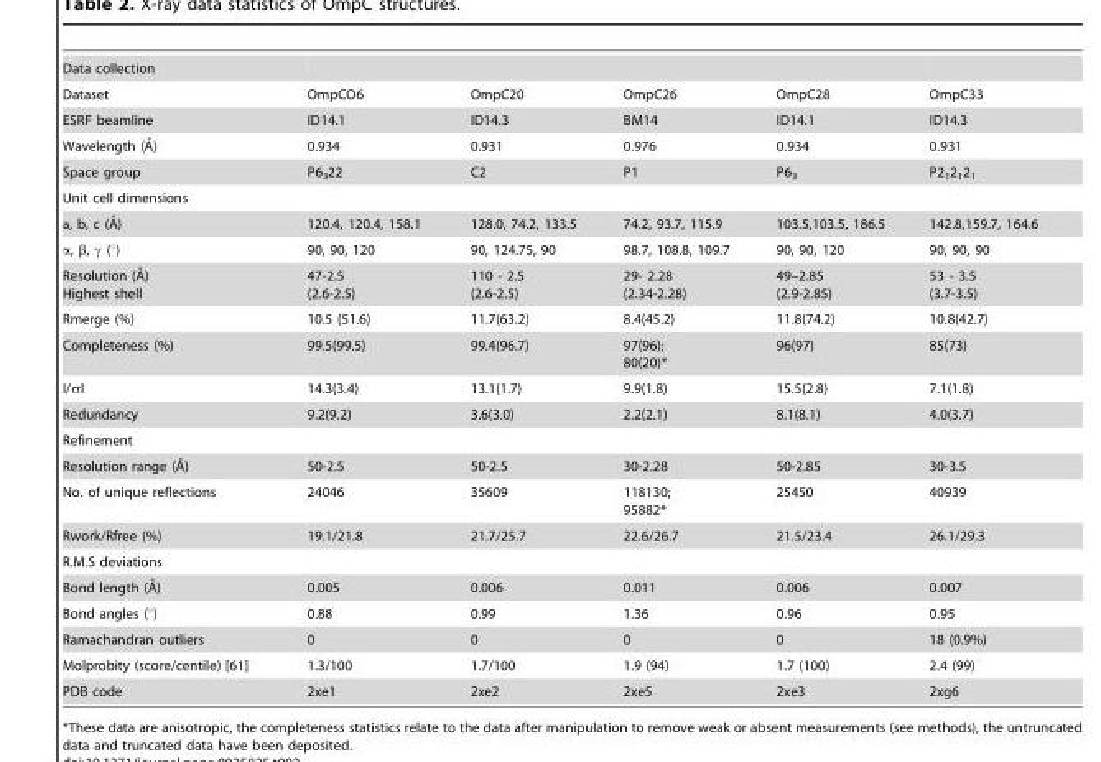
<table><tbody><tr><td colspan="6">Data collection</td></tr><tr><td>Dataset</td><td>OmpCO6</td><td>OmpC20</td><td>OmpC26</td><td>OmpC28</td><td>OmpC33</td></tr><tr><td>ESRF beamline</td><td>ID14.1</td><td>ID14.3</td><td>BM14</td><td>ID14.1</td><td>ID14.3</td></tr><tr><td>Wavelength (A˚)</td><td>0.934</td><td>0.931</td><td>0.976</td><td>0.934</td><td>0.931</td></tr><tr><td>Space group</td><td>P6<sub>3</sub>22</td><td>C2</td><td>P1</td><td>P6<sub>3</sub></td><td>P2<sub>1</sub>2<sub>1</sub>2<sub>1</sub></td></tr><tr><td colspan="6">Unit cell dimensions</td></tr><tr><td>a, b, c (A˚)</td><td>120.4, 120.4, 158.1</td><td>128.0, 74.2, 133.5</td><td>74.2, 93.7, 115.9</td><td>103.5,103.5, 186.5</td><td>142.8,159.7, 164.6</td></tr><tr><td>α, β, γ (°)</td><td>90, 90, 120</td><td>90, 124.75, 90</td><td>98.7, 108.8, 109.7</td><td>90, 90, 120</td><td>90, 90, 90</td></tr><tr><td>Resolution (A˚) Highest shell</td><td>47-2.5 (2.6-2.5)</td><td>110 - 2.5 (2.6-2.5)</td><td>29- 2.28 (2.34-2.28)</td><td>49–2.85 (2.9-2.85)</td><td>53 - 3.5 (3.7-3.5)</td></tr><tr><td>Rmerge (%)</td><td>10.5 (51.6)</td><td>11.7(63.2)</td><td>8.4(45.2)</td><td>11.8(74.2)</td><td>10.8(42.7)</td></tr><tr><td>Completeness (%)</td><td>99.5(99.5)</td><td>99.4(96.7)</td><td>97(96); 80(20)*</td><td>96(97)</td><td>85(73)</td></tr><tr><td>I/σI</td><td>14.3(3.4)</td><td>13.1(1.7)</td><td>9.9(1.8)</td><td>15.5(2.8)</td><td>7.1(1.8)</td></tr><tr><td>Redundancy</td><td>9.2(9.2)</td><td>3.6(3.0)</td><td>2.2(2.1)</td><td>8.1(8.1)</td><td>4.0(3.7)</td></tr><tr><td colspan="6">Refinement</td></tr><tr><td>Resolution range (A˚)</td><td>50-2.5</td><td>50-2.5</td><td>30-2.28</td><td>50-2.85</td><td>30-3.5</td></tr><tr><td>No. of unique reflections</td><td>24046</td><td>35609</td><td>118130; 95882*</td><td>25450</td><td>40939</td></tr><tr><td>Rwork/Rfree (%)</td><td>19.1/21.8</td><td>21.7/25.7</td><td>22.6/26.7</td><td>21.5/23.4</td><td>26.1/29.3</td></tr><tr><td colspan="6">R.M.S deviations</td></tr><tr><td>Bond length (A˚)</td><td>0.005</td><td>0.006</td><td>0.011</td><td>0.006</td><td>0.007</td></tr><tr><td>Bond angles (°)</td><td>0.88</td><td>0.99</td><td>1.36</td><td>0.96</td><td>0.95</td></tr><tr><td>Ramachandran outliers</td><td>0</td><td>0</td><td>0</td><td>0</td><td>18 (0.9%)</td></tr><tr><td>Molprobity (score/centile) [61]</td><td>1.3/100</td><td>1.7/100</td><td>1.9 (94)</td><td>1.7 (100)</td><td>2.4 (99)</td></tr><tr><td>PDB code</td><td>2xe1</td><td>2xe2</td><td>2xe5</td><td>2xe3</td><td>2xg6</td></tr></tbody></table>